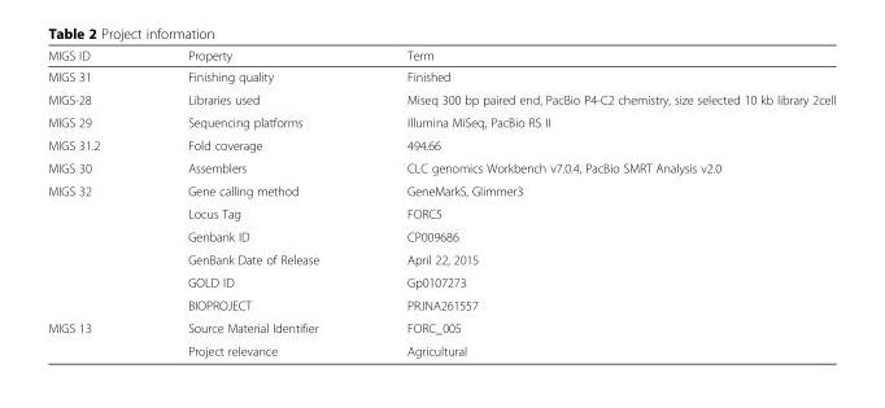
<table><thead><tr><td>MIGS ID</td><td>Property</td><td>Term</td></tr></thead><tbody><tr><td>MIGS 31</td><td>Finishing quality</td><td>Finished</td></tr><tr><td>MIGS-28</td><td>Libraries used</td><td>Miseq 300 bp paired end, PacBio P4-C2 chemistry, size selected 10 kb library 2cell</td></tr><tr><td>MIGS 29</td><td>Sequencing platforms</td><td>Illumina MiSeq, PacBio RS II</td></tr><tr><td>MIGS 31.2</td><td>Fold coverage</td><td>494.66</td></tr><tr><td>MIGS 30</td><td>Assemblers</td><td>CLC genomics Workbench v7.0.4, PacBio SMRT Analysis v2.0</td></tr><tr><td rowspan="6">MIGS 32</td><td>Gene calling method</td><td>GeneMarkS, Glimmer3</td></tr><tr><td>Locus Tag</td><td>FORC5</td></tr><tr><td>Genbank ID</td><td>CP009686</td></tr><tr><td>GenBank Date of Release</td><td>April 22, 2015</td></tr><tr><td>GOLD ID</td><td>Gp0107273</td></tr><tr><td>BIOPROJECT</td><td>PRJNA261557</td></tr><tr><td rowspan="2">MIGS 13</td><td>Source Material Identifier</td><td>FORC_005</td></tr><tr><td>Project relevance</td><td>Agricultural</td></tr></tbody></table>